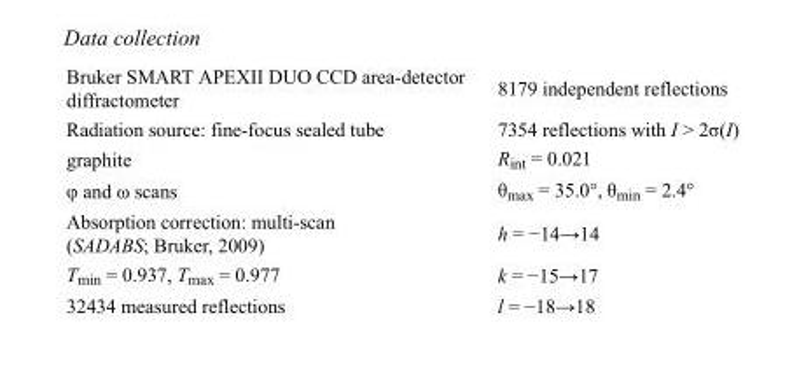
<table><tbody><tr><td>Bruker SMART APEXII DUO CCD area-detector diffractometer</td><td>8179 independent reflections</td></tr><tr><td>Radiation source: fine-focus sealed tube</td><td>7354 reflections with I &gt; 2σ(I)</td></tr><tr><td>graphite</td><td>R<sub>int</sub> = 0.021</td></tr><tr><td>φ and ω scans</td><td>θ<sub>max</sub> = 35.0°, θ<sub>min</sub> = 2.4°</td></tr><tr><td>Absorption correction: multi-scan (SADABS; Bruker, 2009)</td><td>h = −14→14</td></tr><tr><td>T<sub>min</sub> = 0.937, T<sub>max</sub> = 0.977</td><td>k = −15→17</td></tr><tr><td>32434 measured reflections</td><td>l = −18→18</td></tr></tbody></table>